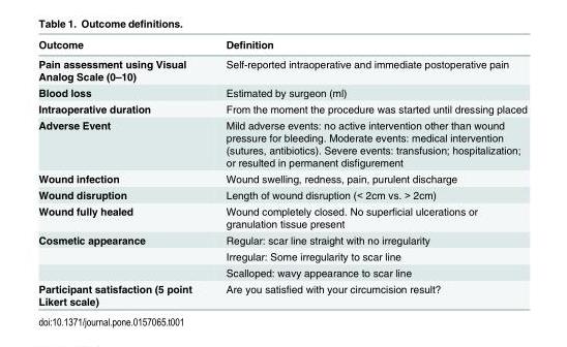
<table><thead><tr><td>Outcome</td><td>Definition</td></tr></thead><tbody><tr><td>Pain assessment using Visual Analog Scale (0–10)</td><td>Self-reported intraoperative and immediate postoperative pain</td></tr><tr><td>Blood loss</td><td>Estimated by surgeon (ml)</td></tr><tr><td>Intraoperative duration</td><td>From the moment the procedure was started until dressing placed</td></tr><tr><td>Adverse Event</td><td>Mild adverse events: no active intervention other than wound pressure for bleeding. Moderate events: medical intervention (sutures, antibiotics). Severe events: transfusion; hospitalization; or resulted in permanent disfigurement</td></tr><tr><td>Wound infection</td><td>Wound swelling, redness, pain, purulent discharge</td></tr><tr><td>Wound disruption</td><td>Length of wound disruption (&lt; 2cm vs. &gt; 2cm)</td></tr><tr><td>Wound fully healed</td><td>Wound completely closed. No superficial ulcerations or granulation tissue present</td></tr><tr><td rowspan="3">Cosmetic appearance</td><td>Regular: scar line straight with no irregularity</td></tr><tr><td>Irregular: Some irregularity to scar line</td></tr><tr><td>Scalloped: wavy appearance to scar line</td></tr><tr><td>Participant satisfaction (5 point Likert scale)</td><td>Are you satisfied with your circumcision result?</td></tr></tbody></table>